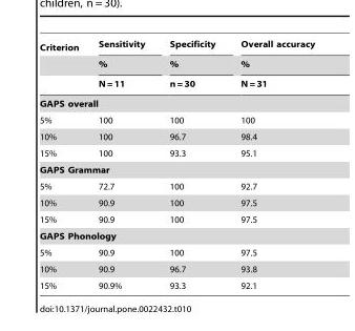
<table><thead><tr><td rowspan="3">Criterion</td><td rowspan="3">Sensitivity % N = 11</td><td rowspan="3">Specificity % n = 30</td><td rowspan="3">Overall accuracy % N = 31</td></tr><tr></tr><tr></tr></thead><tbody><tr><td colspan="4">GAPS overall</td></tr><tr><td>5%</td><td>100</td><td>100</td><td>100</td></tr><tr><td>10%</td><td>100</td><td>96.7</td><td>98.4</td></tr><tr><td>15%</td><td>100</td><td>93.3</td><td>95.1</td></tr><tr><td colspan="4">GAPS Grammar</td></tr><tr><td>5%</td><td>72.7</td><td>100</td><td>92.7</td></tr><tr><td>10%</td><td>90.9</td><td>100</td><td>97.5</td></tr><tr><td>15%</td><td>90.9</td><td>100</td><td>97.5</td></tr><tr><td colspan="4">GAPS Phonology</td></tr><tr><td>5%</td><td>90.9</td><td>100</td><td>97.5</td></tr><tr><td>10%</td><td>90.9</td><td>96.7</td><td>93.8</td></tr><tr><td>15%</td><td>90.9%</td><td>93.3</td><td>92.1</td></tr></tbody></table>